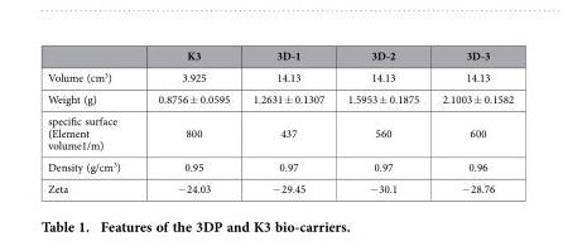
<table><thead><tr><td></td><td>K3</td><td>3D-1</td><td>3D-2</td><td>3D-3</td></tr></thead><tbody><tr><td>Volume (cm<sup>3</sup>)</td><td>3.925</td><td>14.13</td><td>14.13</td><td>14.13</td></tr><tr><td>Weight (g)</td><td>0.8756 ± 0.0595</td><td>1.2631 ± 0.1307</td><td>1.5953 ± 0.1875</td><td>2.1003 ± 0.1582</td></tr><tr><td>specific surface (Element volume1/m)</td><td>800</td><td>437</td><td>560</td><td>600</td></tr><tr><td>Density (g/cm<sup>3</sup>)</td><td>0.95</td><td>0.97</td><td>0.97</td><td>0.96</td></tr><tr><td>Zeta</td><td>− 24.03</td><td>− 29.45</td><td>− 30.1</td><td>− 28.76</td></tr></tbody></table>